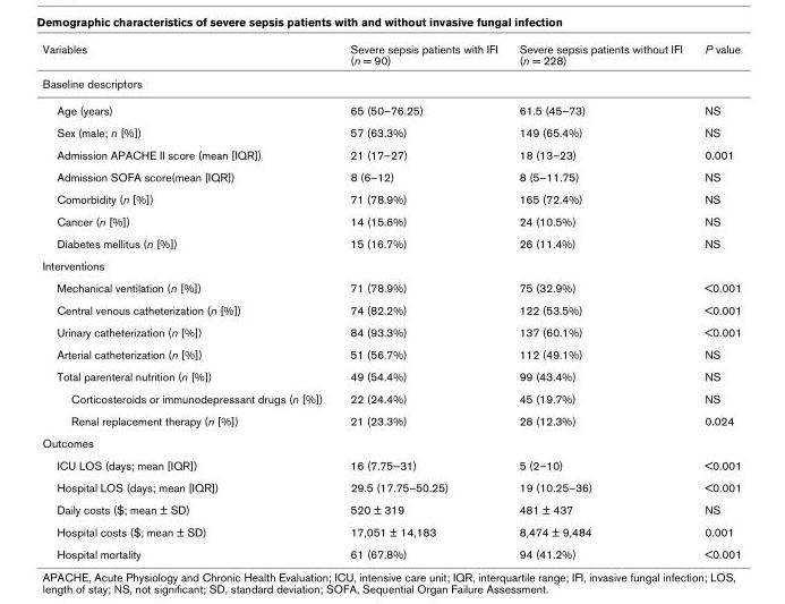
<table><thead><tr><td>Variables</td><td>Severe sepsis patients with IFI (n = 90)</td><td>Severe sepsis patients without IFI (n = 228)</td><td>P value</td></tr></thead><tbody><tr><td colspan="4">Baseline descriptors</td></tr><tr><td>Age (years)</td><td>65 (50–76.25)</td><td>61.5 (45–73)</td><td>NS</td></tr><tr><td>Sex (male; n [%])</td><td>57 (63.3%)</td><td>149 (65.4%)</td><td>NS</td></tr><tr><td>Admission APACHE II score (mean [IQR])</td><td>21 (17–27)</td><td>18 (13–23)</td><td>0.001</td></tr><tr><td>Admission SOFA score(mean [IQR])</td><td>8 (6–12)</td><td>8 (5–11.75)</td><td>NS</td></tr><tr><td>Comorbidity (n [%])</td><td>71 (78.9%)</td><td>165 (72.4%)</td><td>NS</td></tr><tr><td>Cancer (n [%])</td><td>14 (15.6%)</td><td>24 (10.5%)</td><td>NS</td></tr><tr><td>Diabetes mellitus (n [%])</td><td>15 (16.7%)</td><td>26 (11.4%)</td><td>NS</td></tr><tr><td colspan="4">Interventions</td></tr><tr><td>Mechanical ventilation (n [%])</td><td>71 (78.9%)</td><td>75 (32.9%)</td><td>&lt;0.001</td></tr><tr><td>Central venous catheterization (n [%])</td><td>74 (82.2%)</td><td>122 (53.5%)</td><td>&lt;0.001</td></tr><tr><td>Urinary catheterization (n [%])</td><td>84 (93.3%)</td><td>137 (60.1%)</td><td>&lt;0.001</td></tr><tr><td>Arterial catheterization (n [%])</td><td>51 (56.7%)</td><td>112 (49.1%)</td><td>NS</td></tr><tr><td>Total parenteral nutrition (n [%])</td><td>49 (54.4%)</td><td>99 (43.4%)</td><td>NS</td></tr><tr><td>Corticosteroids or immunodepressant drugs (n [%])</td><td>22 (24.4%)</td><td>45 (19.7%)</td><td>NS</td></tr><tr><td>Renal replacement therapy (n [%])</td><td>21 (23.3%)</td><td>28 (12.3%)</td><td>0.024</td></tr><tr><td colspan="4">Outcomes</td></tr><tr><td>ICU LOS (days; mean [IQR])</td><td>16 (7.75–31)</td><td>5 (2–10)</td><td>&lt;0.001</td></tr><tr><td>Hospital LOS (days; mean [IQR])</td><td>29.5 (17.75–50.25)</td><td>19 (10.25–36)</td><td>&lt;0.001</td></tr><tr><td>Daily costs ($; mean ± SD)</td><td>520 ± 319</td><td>481 ± 437</td><td>NS</td></tr><tr><td>Hospital costs ($; mean ± SD)</td><td>17,051 ± 14,183</td><td>8,474 ± 9,484</td><td>0.001</td></tr><tr><td>Hospital mortality</td><td>61 (67.8%)</td><td>94 (41.2%)</td><td>&lt;0.001</td></tr></tbody></table>